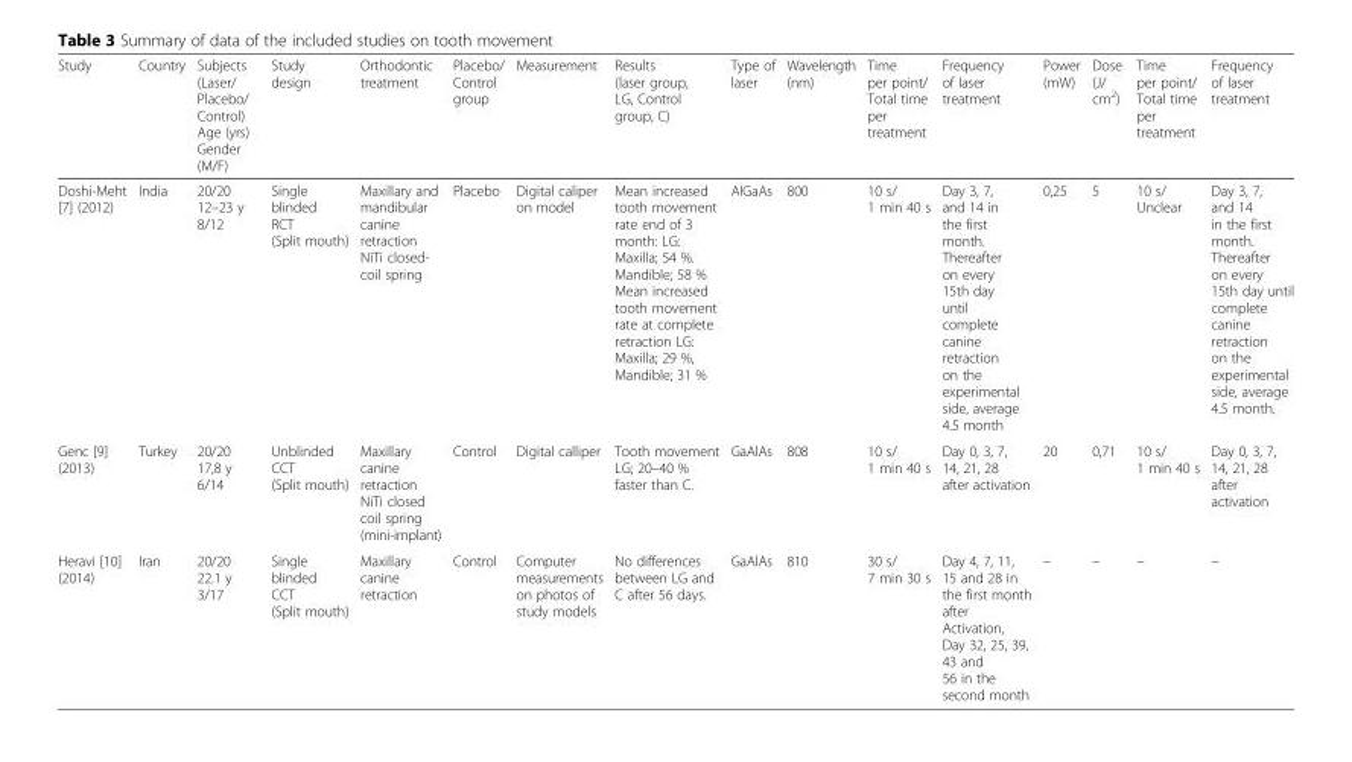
<table><thead><tr><td>Study</td><td>Country</td><td>Subjects (Laser/ Placebo/ Control) Age (yrs) Gender (M/F)</td><td>Study design</td><td>Orthodontic treatment</td><td>Placebo/ Control group</td><td>Measurement</td><td>Results (laser group, LG, Control group, C)</td><td>Type of laser</td><td>Wavelength (nm)</td><td>Time per point/ Total time per treatment</td><td>Frequency of laser treatment</td><td>Power (mW)</td><td>Dose (J/ cm<sup>2</sup>)</td><td>Time per point/ Total time per treatment</td><td>Frequency of laser treatment</td></tr></thead><tbody><tr><td>Doshi-Meht [7] (2012)</td><td>India</td><td>20/20 12–23 y 8/12</td><td>Single blinded RCT (Split mouth)</td><td>Maxillary and mandibular canine retraction NiTi closed- coil spring</td><td>Placebo</td><td>Digital caliper on model</td><td>Mean increased tooth movement rate end of 3 month: LG: Maxilla; 54 %. Mandible; 58 % Mean increased tooth movement rate at complete retraction LG: Maxilla; 29 %, Mandible; 31 %</td><td>AlGaAs</td><td>800</td><td>10 s/ 1 min 40 s</td><td>Day 3, 7, and 14 in the first month. Thereafter on every 15th day until complete canine retraction on the experimental side, average 4.5 month</td><td>0,25</td><td>5</td><td>10 s/ Unclear</td><td>Day 3, 7, and 14 in the first month. Thereafter on every 15th day until complete canine retraction on the experimental side, average 4.5 month.</td></tr><tr><td>Genc [9] (2013)</td><td>Turkey</td><td>20/20 17,8 y 6/14</td><td>Unblinded CCT (Split mouth)</td><td>Maxillary canine retraction NiTi closed coil spring (mini-implant)</td><td>Control</td><td>Digital calliper</td><td>Tooth movement LG; 20–40 % faster than C.</td><td>GaAlAs</td><td>808</td><td>10 s/ 1 min 40 s</td><td>Day 0, 3, 7, 14, 21, 28 after activation</td><td>20</td><td>0,71</td><td>10 s/ 1 min 40 s</td><td>Day 0, 3, 7, 14, 21, 28 after activation</td></tr><tr><td>Heravi [10] (2014)</td><td>Iran</td><td>20/20 22.1 y 3/17</td><td>Single blinded CCT (Split mouth)</td><td>Maxillary canine retraction</td><td>Control</td><td>Computer measurements on photos of study models</td><td>No differences between LG and C after 56 days.</td><td>GaAlAs</td><td>810</td><td>30 s/ 7 min 30 s</td><td>Day 4, 7, 11, 15 and 28 in the first month after Activation, Day 32, 25, 39, 43 and 56 in the second month</td><td>–</td><td>–</td><td>–</td><td>–</td></tr></tbody></table>